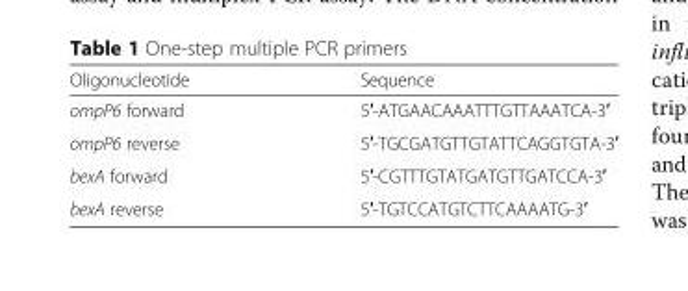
<table><thead><tr><td>Oligonucleotide</td><td>Sequence</td></tr></thead><tbody><tr><td>ompP6 forward</td><td>5′-ATGAACAAATTTGTTAAATCA-3′</td></tr><tr><td>ompP6 reverse</td><td>5′-TGCGATGTTGTATTCAGGTGTA-3′</td></tr><tr><td>bexA forward</td><td>5′-CGTTTGTATGATGTTGATCCA-3′</td></tr><tr><td>bexA reverse</td><td>5′-TGTCCATGTCTTCAAAATG-3′</td></tr></tbody></table>